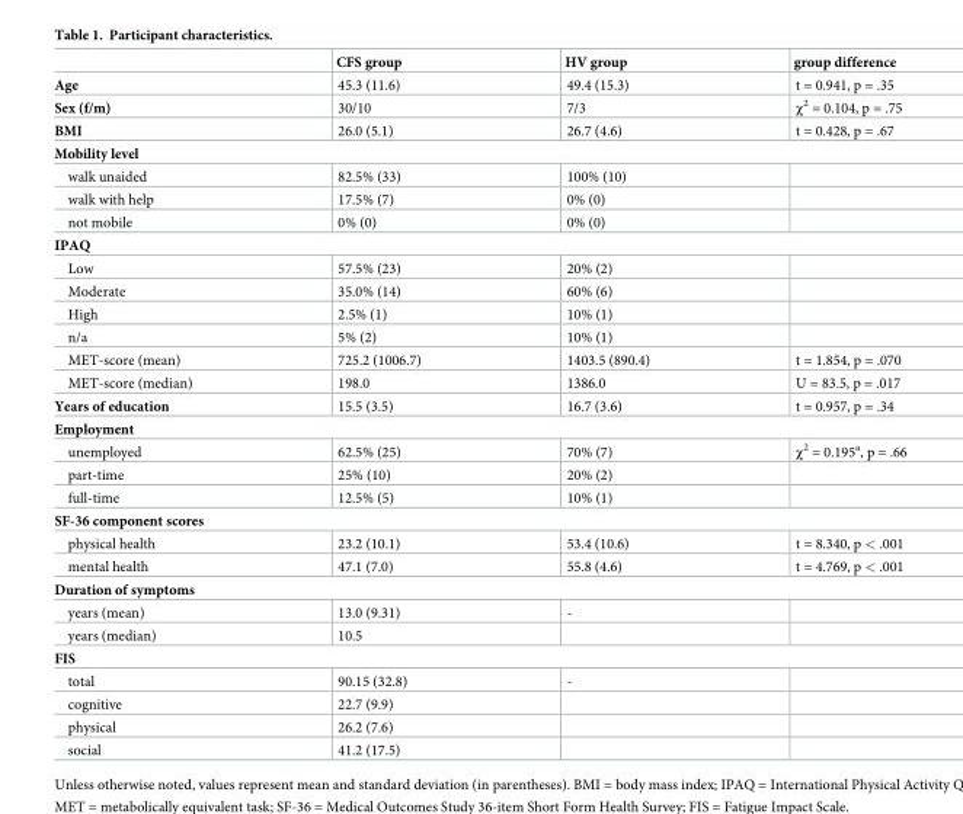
<table><thead><tr><td></td><td>CFS group</td><td>HV group</td><td>group difference</td></tr></thead><tbody><tr><td>Age</td><td>45.3 (11.6)</td><td>49.4 (15.3)</td><td>t = 0.941, p = .35</td></tr><tr><td>Sex (f/m)</td><td>30/10</td><td>7/3</td><td>χ<sup>2</sup> = 0.104, p = .75</td></tr><tr><td>BMI</td><td>26.0 (5.1)</td><td>26.7 (4.6)</td><td>t = 0.428, p = .67</td></tr><tr><td colspan="4">Mobility level</td></tr><tr><td>walk unaided</td><td>82.5% (33)</td><td>100% (10)</td><td></td></tr><tr><td>walk with help</td><td>17.5% (7)</td><td>0% (0)</td><td></td></tr><tr><td>not mobile</td><td>0% (0)</td><td>0% (0)</td><td></td></tr><tr><td colspan="4">IPAQ</td></tr><tr><td>Low</td><td>57.5% (23)</td><td>20% (2)</td><td></td></tr><tr><td>Moderate</td><td>35.0% (14)</td><td>60% (6)</td><td></td></tr><tr><td>High</td><td>2.5% (1)</td><td>10% (1)</td><td></td></tr><tr><td>n/a</td><td>5% (2)</td><td>10% (1)</td><td></td></tr><tr><td>MET-score (mean)</td><td>725.2 (1006.7)</td><td>1403.5 (890.4)</td><td>t = 1.854, p = .070</td></tr><tr><td>MET-score (median)</td><td>198.0</td><td>1386.0</td><td>U = 83.5, p = .017</td></tr><tr><td>Years of education</td><td>15.5 (3.5)</td><td>16.7 (3.6)</td><td>t = 0.957, p = .34</td></tr><tr><td colspan="4">Employment</td></tr><tr><td>unemployed</td><td>62.5% (25)</td><td>70% (7)</td><td>χ<sup>2</sup> = 0.195<sup>a</sup>, p = .66</td></tr><tr><td>part-time</td><td>25% (10)</td><td>20% (2)</td><td></td></tr><tr><td>full-time</td><td>12.5% (5)</td><td>10% (1)</td><td></td></tr><tr><td colspan="4">SF-36 component scores</td></tr><tr><td>physical health</td><td>23.2 (10.1)</td><td>53.4 (10.6)</td><td>t = 8.340, p &lt; .001</td></tr><tr><td>mental health</td><td>47.1 (7.0)</td><td>55.8 (4.6)</td><td>t = 4.769, p &lt; .001</td></tr><tr><td colspan="4">Duration of symptoms</td></tr><tr><td>years (mean)</td><td>13.0 (9.31)</td><td>-</td><td></td></tr><tr><td>years (median)</td><td>10.5</td><td></td><td></td></tr><tr><td colspan="4">FIS</td></tr><tr><td>total</td><td>90.15 (32.8)</td><td>-</td><td></td></tr><tr><td>cognitive</td><td>22.7 (9.9)</td><td></td><td></td></tr><tr><td>physical</td><td>26.2 (7.6)</td><td></td><td></td></tr><tr><td>social</td><td>41.2 (17.5)</td><td></td><td></td></tr></tbody></table>